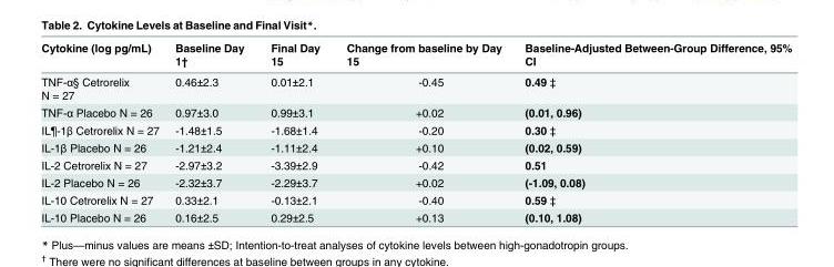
<table><thead><tr><td>Cytokine (log pg/mL)</td><td>Baseline Day 1†</td><td>Final Day 15</td><td>Change from baseline by Day 15</td><td>Baseline-Adjusted Between-Group Difference, 95% CI</td></tr></thead><tbody><tr><td>TNF-α§ Cetrorelix N = 27</td><td>0.46±2.3</td><td>0.01±2.1</td><td>-0.45</td><td>0.49 ‡</td></tr><tr><td>TNF-α Placebo N = 26</td><td>0.97±3.0</td><td>0.99±3.1</td><td>+0.02</td><td>(0.01, 0.96)</td></tr><tr><td>IL¶-1β Cetrorelix N = 27</td><td>-1.48±1.5</td><td>-1.68±1.4</td><td>-0.20</td><td>0.30 ‡</td></tr><tr><td>IL-1β Placebo N = 26</td><td>-1.21±2.4</td><td>-1.11±2.4</td><td>+0.10</td><td>(0.02, 0.59)</td></tr><tr><td>IL-2 Cetrorelix N = 27</td><td>-2.97±3.2</td><td>-3.39±2.9</td><td>-0.42</td><td>0.51</td></tr><tr><td>IL-2 Placebo N = 26</td><td>-2.32±3.7</td><td>-2.29±3.7</td><td>+0.02</td><td>(-1.09, 0.08)</td></tr><tr><td>IL-10 Cetrorelix N = 27</td><td>0.33±2.1</td><td>-0.13±2.1</td><td>-0.40</td><td>0.59 ‡</td></tr><tr><td>IL-10 Placebo N = 26</td><td>0.16±2.5</td><td>0.29±2.5</td><td>+0.13</td><td>(0.10, 1.08)</td></tr></tbody></table>